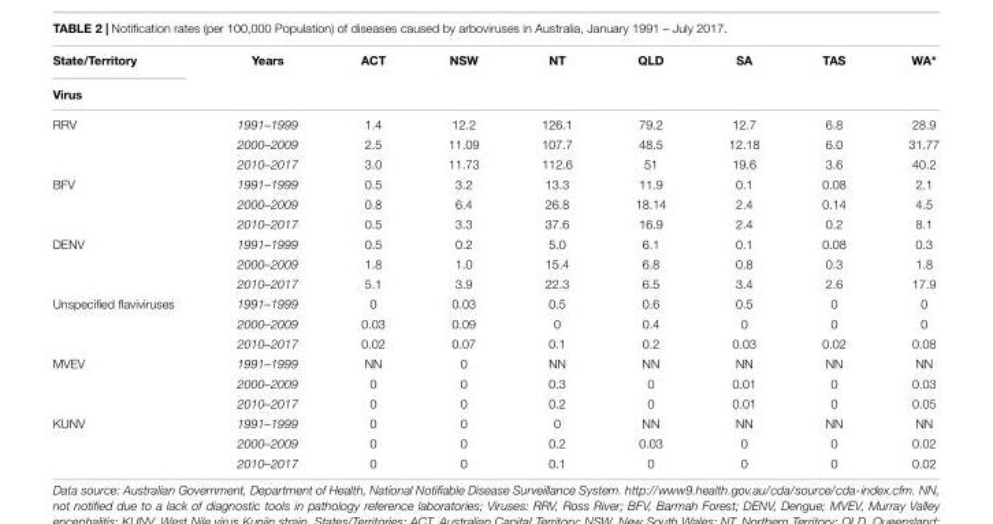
<table><thead><tr><td rowspan="2">State/Territory Virus</td><td rowspan="2">Years</td><td rowspan="2">ACT</td><td rowspan="2">NSW</td><td rowspan="2">NT</td><td rowspan="2">QLD</td><td rowspan="2">SA</td><td rowspan="2">TAS</td><td rowspan="2">WA∗</td></tr><tr></tr></thead><tbody><tr><td rowspan="3">RRV</td><td>1991–1999</td><td>1.4</td><td>12.2</td><td>126.1</td><td>79.2</td><td>12.7</td><td>6.8</td><td>28.9</td></tr><tr><td>2000–2009</td><td>2.5</td><td>11.09</td><td>107.7</td><td>48.5</td><td>12.18</td><td>6.0</td><td>31.77</td></tr><tr><td>2010–2017</td><td>3.0</td><td>11.73</td><td>112.6</td><td>51</td><td>19.6</td><td>3.6</td><td>40.2</td></tr><tr><td rowspan="3">BFV</td><td>1991–1999</td><td>0.5</td><td>3.2</td><td>13.3</td><td>11.9</td><td>0.1</td><td>0.08</td><td>2.1</td></tr><tr><td>2000–2009</td><td>0.8</td><td>6.4</td><td>26.8</td><td>18.14</td><td>2.4</td><td>0.14</td><td>4.5</td></tr><tr><td>2010–2017</td><td>0.5</td><td>3.3</td><td>37.6</td><td>16.9</td><td>2.4</td><td>0.2</td><td>8.1</td></tr><tr><td rowspan="3">DENV</td><td>1991–1999</td><td>0.5</td><td>0.2</td><td>5.0</td><td>6.1</td><td>0.1</td><td>0.08</td><td>0.3</td></tr><tr><td>2000–2009</td><td>1.8</td><td>1.0</td><td>15.4</td><td>6.8</td><td>0.8</td><td>0.3</td><td>1.8</td></tr><tr><td>2010–2017</td><td>5.1</td><td>3.9</td><td>22.3</td><td>6.5</td><td>3.4</td><td>2.6</td><td>17.9</td></tr><tr><td rowspan="3">Unspecified flaviviruses</td><td>1991–1999</td><td>0</td><td>0.03</td><td>0.5</td><td>0.6</td><td>0.5</td><td>0</td><td>0</td></tr><tr><td>2000–2009</td><td>0.03</td><td>0.09</td><td>0</td><td>0.4</td><td>0</td><td>0</td><td>0</td></tr><tr><td>2010–2017</td><td>0.02</td><td>0.07</td><td>0.1</td><td>0.2</td><td>0.03</td><td>0.02</td><td>0.08</td></tr><tr><td rowspan="3">MVEV</td><td>1991–1999</td><td>NN</td><td>0</td><td>NN</td><td>NN</td><td>NN</td><td>NN</td><td>NN</td></tr><tr><td>2000–2009</td><td>0</td><td>0</td><td>0.3</td><td>0</td><td>0.01</td><td>0</td><td>0.03</td></tr><tr><td>2010–2017</td><td>0</td><td>0</td><td>0.2</td><td>0</td><td>0.01</td><td>0</td><td>0.05</td></tr><tr><td rowspan="3">KUNV</td><td>1991–1999</td><td>0</td><td>0</td><td>0</td><td>NN</td><td>NN</td><td>NN</td><td>NN</td></tr><tr><td>2000–2009</td><td>0</td><td>0</td><td>0.2</td><td>0.03</td><td>0</td><td>0</td><td>0.02</td></tr><tr><td>2010–2017</td><td>0</td><td>0</td><td>0.1</td><td>0</td><td>0</td><td>0</td><td>0.02</td></tr></tbody></table>